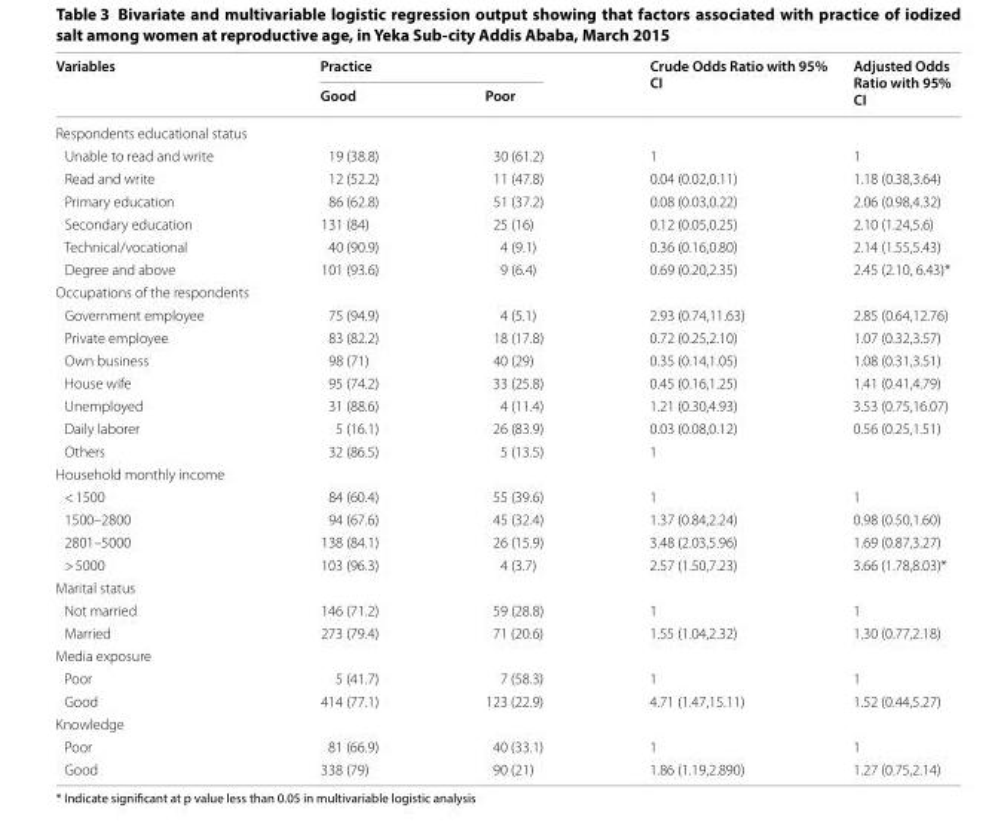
<table><thead><tr><td rowspan="2">Variables</td><td colspan="2">Practice</td><td rowspan="2">Crude Odds Ratio with 95% CI</td><td rowspan="2">Adjusted Odds Ratio with 95% CI</td></tr><tr><td>Good</td><td>Poor</td></tr></thead><tbody><tr><td colspan="5">Respondents educational status</td></tr><tr><td>Unable to read and write</td><td>19 (38.8)</td><td>30 (61.2)</td><td>1</td><td>1</td></tr><tr><td>Read and write</td><td>12 (52.2)</td><td>11 (47.8)</td><td>0.04 (0.02,0.11)</td><td>1.18 (0.38,3.64)</td></tr><tr><td>Primary education</td><td>86 (62.8)</td><td>51 (37.2)</td><td>0.08 (0.03,0.22)</td><td>2.06 (0.98,4.32)</td></tr><tr><td>Secondary education</td><td>131 (84)</td><td>25 (16)</td><td>0.12 (0.05,0.25)</td><td>2.10 (1.24,5.6)</td></tr><tr><td>Technical/vocational</td><td>40 (90.9)</td><td>4 (9.1)</td><td>0.36 (0.16,0.80)</td><td>2.14 (1.55,5.43)</td></tr><tr><td>Degree and above</td><td>101 (93.6)</td><td>9 (6.4)</td><td>0.69 (0.20,2.35)</td><td>2.45 (2.10, 6.43)*</td></tr><tr><td colspan="5">Occupations of the respondents</td></tr><tr><td>Government employee</td><td>75 (94.9)</td><td>4 (5.1)</td><td>2.93 (0.74,11.63)</td><td>2.85 (0.64,12.76)</td></tr><tr><td>Private employee</td><td>83 (82.2)</td><td>18 (17.8)</td><td>0.72 (0.25,2.10)</td><td>1.07 (0.32,3.57)</td></tr><tr><td>Own business</td><td>98 (71)</td><td>40 (29)</td><td>0.35 (0.14,1.05)</td><td>1.08 (0.31,3.51)</td></tr><tr><td>House wife</td><td>95 (74.2)</td><td>33 (25.8)</td><td>0.45 (0.16,1.25)</td><td>1.41 (0.41,4.79)</td></tr><tr><td>Unemployed</td><td>31 (88.6)</td><td>4 (11.4)</td><td>1.21 (0.30,4.93)</td><td>3.53 (0.75,16.07)</td></tr><tr><td>Daily laborer</td><td>5 (16.1)</td><td>26 (83.9)</td><td>0.03 (0.08,0.12)</td><td>0.56 (0.25,1.51)</td></tr><tr><td>Others</td><td>32 (86.5)</td><td>5 (13.5)</td><td>1</td><td></td></tr><tr><td colspan="5">Household monthly income</td></tr><tr><td>&lt; 1500</td><td>84 (60.4)</td><td>55 (39.6)</td><td>1</td><td>1</td></tr><tr><td>1500–2800</td><td>94 (67.6)</td><td>45 (32.4)</td><td>1.37 (0.84,2.24)</td><td>0.98 (0.50,1.60)</td></tr><tr><td>2801–5000</td><td>138 (84.1)</td><td>26 (15.9)</td><td>3.48 (2.03,5.96)</td><td>1.69 (0.87,3.27)</td></tr><tr><td>&gt; 5000</td><td>103 (96.3)</td><td>4 (3.7)</td><td>2.57 (1.50,7.23)</td><td>3.66 (1.78,8.03)*</td></tr><tr><td colspan="5">Marital status</td></tr><tr><td>Not married</td><td>146 (71.2)</td><td>59 (28.8)</td><td>1</td><td>1</td></tr><tr><td>Married</td><td>273 (79.4)</td><td>71 (20.6)</td><td>1.55 (1.04,2.32)</td><td>1.30 (0.77,2.18)</td></tr><tr><td colspan="5">Media exposure</td></tr><tr><td>Poor</td><td>5 (41.7)</td><td>7 (58.3)</td><td>1</td><td>1</td></tr><tr><td>Good</td><td>414 (77.1)</td><td>123 (22.9)</td><td>4.71 (1.47,15.11)</td><td>1.52 (0.44,5.27)</td></tr><tr><td colspan="5">Knowledge</td></tr><tr><td>Poor</td><td>81 (66.9)</td><td>40 (33.1)</td><td>1</td><td>1</td></tr><tr><td>Good</td><td>338 (79)</td><td>90 (21)</td><td>1.86 (1.19,2.890)</td><td>1.27 (0.75,2.14)</td></tr></tbody></table>